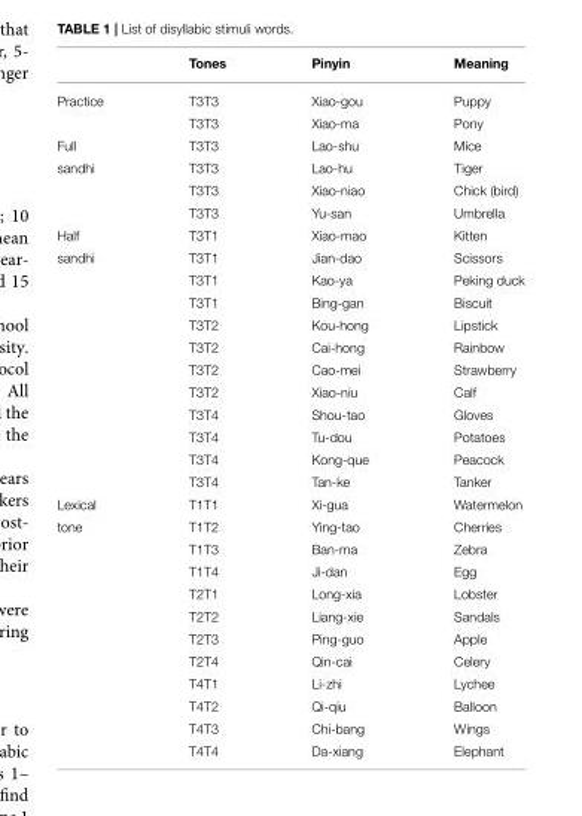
<table><thead><tr><td></td><td>Tones</td><td>Pinyin</td><td>Meaning</td></tr></thead><tbody><tr><td rowspan="2">Practice</td><td>T3T3</td><td>Xiao-gou</td><td>Puppy</td></tr><tr><td>T3T3</td><td>Xiao-ma</td><td>Pony</td></tr><tr><td>Full</td><td>T3T3</td><td>Lao-shu</td><td>Mice</td></tr><tr><td rowspan="3">sandhi</td><td>T3T3</td><td>Lao-hu</td><td>Tiger</td></tr><tr><td>T3T3</td><td>Xiao-niao</td><td>Chick (bird)</td></tr><tr><td>T3T3</td><td>Yu-san</td><td>Umbrella</td></tr><tr><td>Half</td><td>T3T1</td><td>Xiao-mao</td><td>Kitten</td></tr><tr><td rowspan="11">sandhi</td><td>T3T1</td><td>Jian-dao</td><td>Scissors</td></tr><tr><td>T3T1</td><td>Kao-ya</td><td>Peking duck</td></tr><tr><td>T3T1</td><td>Bing-gan</td><td>Biscuit</td></tr><tr><td>T3T2</td><td>Kou-hong</td><td>Lipstick</td></tr><tr><td>T3T2</td><td>Cai-hong</td><td>Rainbow</td></tr><tr><td>T3T2</td><td>Cao-mei</td><td>Strawberry</td></tr><tr><td>T3T2</td><td>Xiao-niu</td><td>Calf</td></tr><tr><td>T3T4</td><td>Shou-tao</td><td>Gloves</td></tr><tr><td>T3T4</td><td>Tu-dou</td><td>Potatoes</td></tr><tr><td>T3T4</td><td>Kong-que</td><td>Peacock</td></tr><tr><td>T3T4</td><td>Tan-ke</td><td>Tanker</td></tr><tr><td>Lexical</td><td>T1T1</td><td>Xi-gua</td><td>Watermelon</td></tr><tr><td rowspan="11">tone</td><td>T1T2</td><td>Ying-tao</td><td>Cherries</td></tr><tr><td>T1T3</td><td>Ban-ma</td><td>Zebra</td></tr><tr><td>T1T4</td><td>Ji-dan</td><td>Egg</td></tr><tr><td>T2T1</td><td>Long-xia</td><td>Lobster</td></tr><tr><td>T2T2</td><td>Liang-xie</td><td>Sandals</td></tr><tr><td>T2T3</td><td>Ping-guo</td><td>Apple</td></tr><tr><td>T2T4</td><td>Qin-cai</td><td>Celery</td></tr><tr><td>T4T1</td><td>Li-zhi</td><td>Lychee</td></tr><tr><td>T4T2</td><td>Qi-qiu</td><td>Balloon</td></tr><tr><td>T4T3</td><td>Chi-bang</td><td>Wings</td></tr><tr><td>T4T4</td><td>Da-xiang</td><td>Elephant</td></tr></tbody></table>